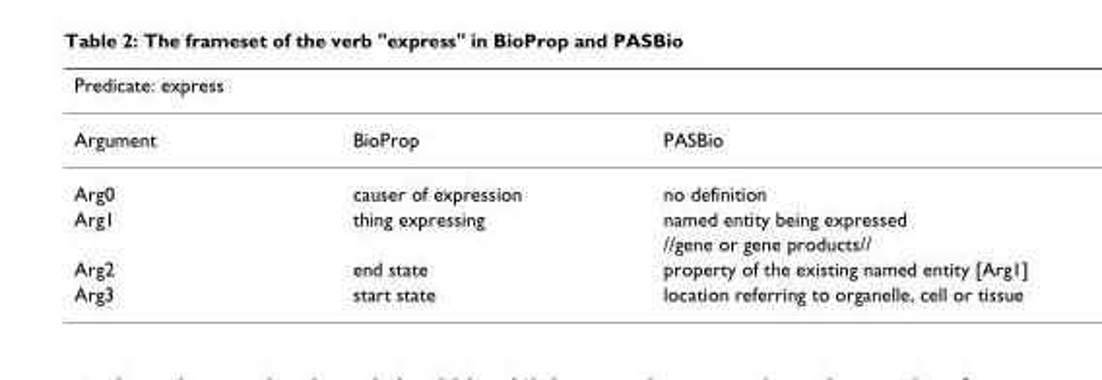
<table><thead><tr><td>Predicate: express</td><td></td><td></td></tr></thead><tbody><tr><td>Argument</td><td>BioProp</td><td>PASBio</td></tr><tr><td>Arg0</td><td>causer of expression</td><td>no definition</td></tr><tr><td rowspan="2">Arg1</td><td>thing expressing</td><td>named entity being expressed</td></tr><tr><td></td><td>//gene or gene products//</td></tr><tr><td>Arg2</td><td>end state</td><td>property of the existing named entity [Arg1]</td></tr><tr><td>Arg3</td><td>start state</td><td>location referring to organelle, cell or tissue</td></tr></tbody></table>